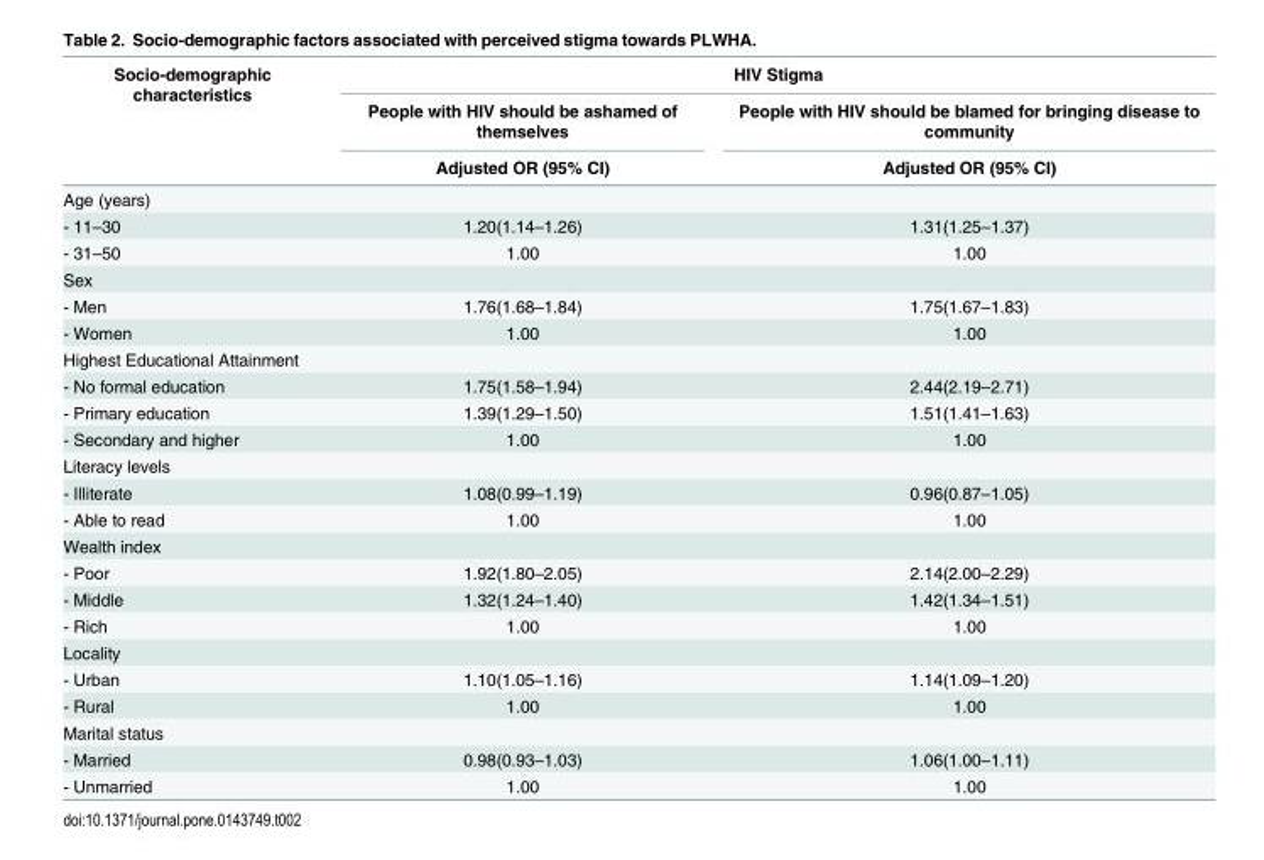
<table><thead><tr><td rowspan="3">Socio-demographic characteristics</td><td colspan="2">HIV Stigma</td></tr><tr><td rowspan="2">People with HIV should be ashamed of themselves Adjusted OR (95% CI)</td><td rowspan="2">People with HIV should be blamed for bringing disease to community Adjusted OR (95% CI)</td></tr><tr></tr></thead><tbody><tr><td colspan="3">Age (years)</td></tr><tr><td>- 11–30</td><td>1.20(1.14–1.26)</td><td>1.31(1.25–1.37)</td></tr><tr><td>- 31–50</td><td>1.00</td><td>1.00</td></tr><tr><td colspan="3">Sex</td></tr><tr><td>- Men</td><td>1.76(1.68–1.84)</td><td>1.75(1.67–1.83)</td></tr><tr><td>- Women</td><td>1.00</td><td>1.00</td></tr><tr><td colspan="3">Highest Educational Attainment</td></tr><tr><td>- No formal education</td><td>1.75(1.58–1.94)</td><td>2.44(2.19–2.71)</td></tr><tr><td>- Primary education</td><td>1.39(1.29–1.50)</td><td>1.51(1.41–1.63)</td></tr><tr><td>- Secondary and higher</td><td>1.00</td><td>1.00</td></tr><tr><td colspan="3">Literacy levels</td></tr><tr><td>- Illiterate</td><td>1.08(0.99–1.19)</td><td>0.96(0.87–1.05)</td></tr><tr><td>- Able to read</td><td>1.00</td><td>1.00</td></tr><tr><td colspan="3">Wealth index</td></tr><tr><td>- Poor</td><td>1.92(1.80–2.05)</td><td>2.14(2.00–2.29)</td></tr><tr><td>- Middle</td><td>1.32(1.24–1.40)</td><td>1.42(1.34–1.51)</td></tr><tr><td>- Rich</td><td>1.00</td><td>1.00</td></tr><tr><td colspan="3">Locality</td></tr><tr><td>- Urban</td><td>1.10(1.05–1.16)</td><td>1.14(1.09–1.20)</td></tr><tr><td>- Rural</td><td>1.00</td><td>1.00</td></tr><tr><td colspan="3">Marital status</td></tr><tr><td>- Married</td><td>0.98(0.93–1.03)</td><td>1.06(1.00–1.11)</td></tr><tr><td>- Unmarried</td><td>1.00</td><td>1.00</td></tr></tbody></table>